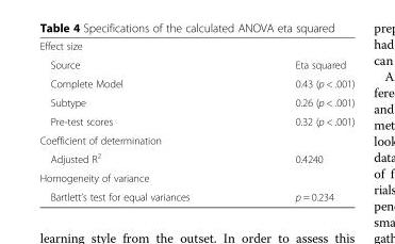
<table><tbody><tr><td colspan="2">Effect size</td></tr><tr><td>Source</td><td>Eta squared</td></tr><tr><td>Complete Model</td><td>0.43 (p &lt; .001)</td></tr><tr><td>Subtype</td><td>0.26 (p &lt; .001)</td></tr><tr><td>Pre-test scores</td><td>0.32 (p &lt; .001)</td></tr><tr><td colspan="2">Coefficient of determination</td></tr><tr><td>Adjusted R<sup>2</sup></td><td>0.4240</td></tr><tr><td colspan="2">Homogeneity of variance</td></tr><tr><td>Bartlett’s test for equal variances</td><td>p = 0.234</td></tr></tbody></table>